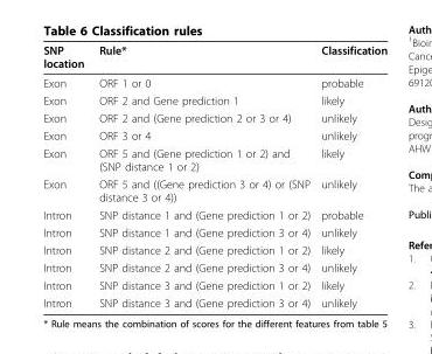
<table><thead><tr><td>SNP location</td><td>Rule*</td><td>Classification</td></tr></thead><tbody><tr><td>Exon</td><td>ORF 1 or 0</td><td>probable</td></tr><tr><td>Exon</td><td>ORF 2 and Gene prediction 1</td><td>likely</td></tr><tr><td>Exon</td><td>ORF 2 and (Gene prediction 2 or 3 or 4)</td><td>unlikely</td></tr><tr><td>Exon</td><td>ORF 3 or 4</td><td>unlikely</td></tr><tr><td>Exon</td><td>ORF 5 and (Gene prediction 1 or 2) and (SNP distance 1 or 2)</td><td>likely</td></tr><tr><td>Exon</td><td>ORF 5 and ((Gene prediction 3 or 4) or (SNP distance 3 or 4))</td><td>unlikely</td></tr><tr><td>Intron</td><td>SNP distance 1 and (Gene prediction 1 or 2)</td><td>probable</td></tr><tr><td>Intron</td><td>SNP distance 1 and (Gene prediction 3 or 4)</td><td>unlikely</td></tr><tr><td>Intron</td><td>SNP distance 2 and (Gene prediction 1 or 2)</td><td>likely</td></tr><tr><td>Intron</td><td>SNP distance 2 and (Gene prediction 3 or 4)</td><td>unlikely</td></tr><tr><td>Intron</td><td>SNP distance 3 and (Gene prediction 1 or 2)</td><td>likely</td></tr><tr><td>Intron</td><td>SNP distance 3 and (Gene prediction 3 or 4)</td><td>unlikely</td></tr></tbody></table>